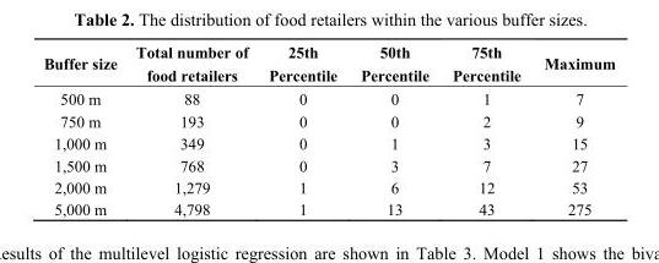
<table><thead><tr><td rowspan="2">Buffer size</td><td rowspan="2">Total number of food retailers</td><td rowspan="2">25th Percentile</td><td rowspan="2">50th Percentile</td><td rowspan="2">75th Percentile</td><td rowspan="2">Maximum</td></tr><tr></tr></thead><tbody><tr><td>500 m</td><td>88</td><td>0</td><td>0</td><td>1</td><td>7</td></tr><tr><td>750 m</td><td>193</td><td>0</td><td>0</td><td>2</td><td>9</td></tr><tr><td>1,000 m</td><td>349</td><td>0</td><td>1</td><td>3</td><td>15</td></tr><tr><td>1,500 m</td><td>768</td><td>0</td><td>3</td><td>7</td><td>27</td></tr><tr><td>2,000 m</td><td>1,279</td><td>1</td><td>6</td><td>12</td><td>53</td></tr><tr><td>5,000 m</td><td>4,798</td><td>1</td><td>13</td><td>43</td><td>275</td></tr></tbody></table>